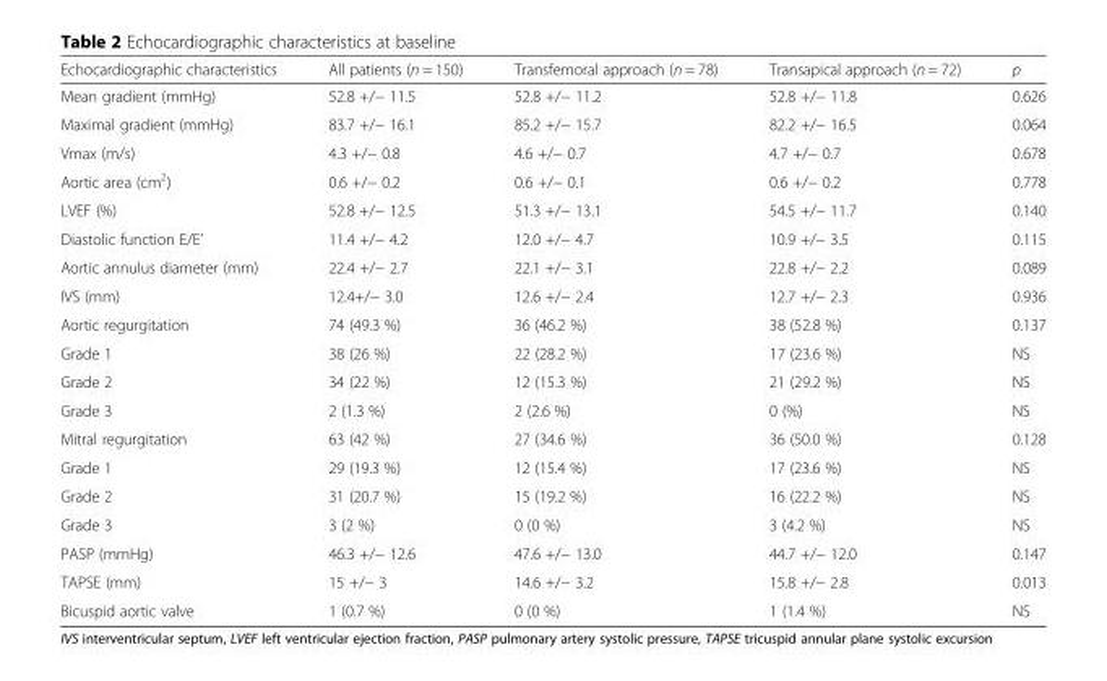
<table><thead><tr><td>Echocardiographic characteristics</td><td>All patients (n = 150)</td><td>Transfemoral approach (n = 78)</td><td>Transapical approach (n = 72)</td><td>p</td></tr></thead><tbody><tr><td>Mean gradient (mmHg)</td><td>52.8 +/− 11.5</td><td>52.8 +/− 11.2</td><td>52.8 +/− 11.8</td><td>0.626</td></tr><tr><td>Maximal gradient (mmHg)</td><td>83.7 +/− 16.1</td><td>85.2 +/− 15.7</td><td>82.2 +/− 16.5</td><td>0.064</td></tr><tr><td>Vmax (m/s)</td><td>4.3 +/− 0.8</td><td>4.6 +/− 0.7</td><td>4.7 +/− 0.7</td><td>0.678</td></tr><tr><td>Aortic area (cm<sup>2</sup>)</td><td>0.6 +/− 0.2</td><td>0.6 +/− 0.1</td><td>0.6 +/− 0.2</td><td>0.778</td></tr><tr><td>LVEF (%)</td><td>52.8 +/− 12.5</td><td>51.3 +/− 13.1</td><td>54.5 +/− 11.7</td><td>0.140</td></tr><tr><td>Diastolic function E/E’</td><td>11.4 +/− 4.2</td><td>12.0 +/− 4.7</td><td>10.9 +/− 3.5</td><td>0.115</td></tr><tr><td>Aortic annulus diameter (mm)</td><td>22.4 +/− 2.7</td><td>22.1 +/− 3.1</td><td>22.8 +/− 2.2</td><td>0.089</td></tr><tr><td>IVS (mm)</td><td>12.4+/− 3.0</td><td>12.6 +/− 2.4</td><td>12.7 +/− 2.3</td><td>0.936</td></tr><tr><td>Aortic regurgitation</td><td>74 (49.3 %)</td><td>36 (46.2 %)</td><td>38 (52.8 %)</td><td>0.137</td></tr><tr><td>Grade 1</td><td>38 (26 %)</td><td>22 (28.2 %)</td><td>17 (23.6 %)</td><td>NS</td></tr><tr><td>Grade 2</td><td>34 (22 %)</td><td>12 (15.3 %)</td><td>21 (29.2 %)</td><td>NS</td></tr><tr><td>Grade 3</td><td>2 (1.3 %)</td><td>2 (2.6 %)</td><td>0 (%)</td><td>NS</td></tr><tr><td>Mitral regurgitation</td><td>63 (42 %)</td><td>27 (34.6 %)</td><td>36 (50.0 %)</td><td>0.128</td></tr><tr><td>Grade 1</td><td>29 (19.3 %)</td><td>12 (15.4 %)</td><td>17 (23.6 %)</td><td>NS</td></tr><tr><td>Grade 2</td><td>31 (20.7 %)</td><td>15 (19.2 %)</td><td>16 (22.2 %)</td><td>NS</td></tr><tr><td>Grade 3</td><td>3 (2 %)</td><td>0 (0 %)</td><td>3 (4.2 %)</td><td>NS</td></tr><tr><td>PASP (mmHg)</td><td>46.3 +/− 12.6</td><td>47.6 +/− 13.0</td><td>44.7 +/− 12.0</td><td>0.147</td></tr><tr><td>TAPSE (mm)</td><td>15 +/− 3</td><td>14.6 +/− 3.2</td><td>15.8 +/− 2.8</td><td>0.013</td></tr><tr><td>Bicuspid aortic valve</td><td>1 (0.7 %)</td><td>0 (0 %)</td><td>1 (1.4 %)</td><td>NS</td></tr></tbody></table>